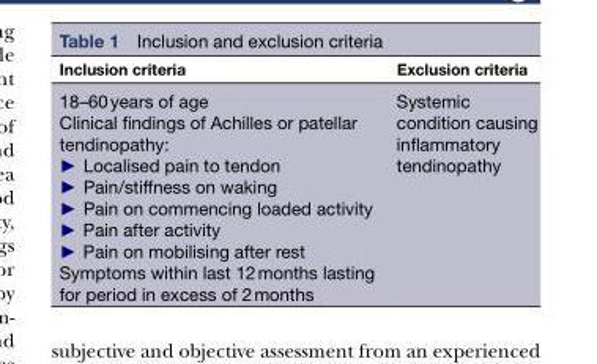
<table><thead><tr><td>Inclusion criteria</td><td>Exclusion criteria</td></tr></thead><tbody><tr><td>18–60 years of age Clinical findings of Achilles or patellar tendinopathy: ► Localised pain to tendon ► Pain/stiffness on waking ► Pain on commencing loaded activity ► Pain after activity ► Pain on mobilising after rest Symptoms within last 12 months lasting for period in excess of 2 months</td><td>Systemic condition causing inflammatory tendinopathy</td></tr></tbody></table>